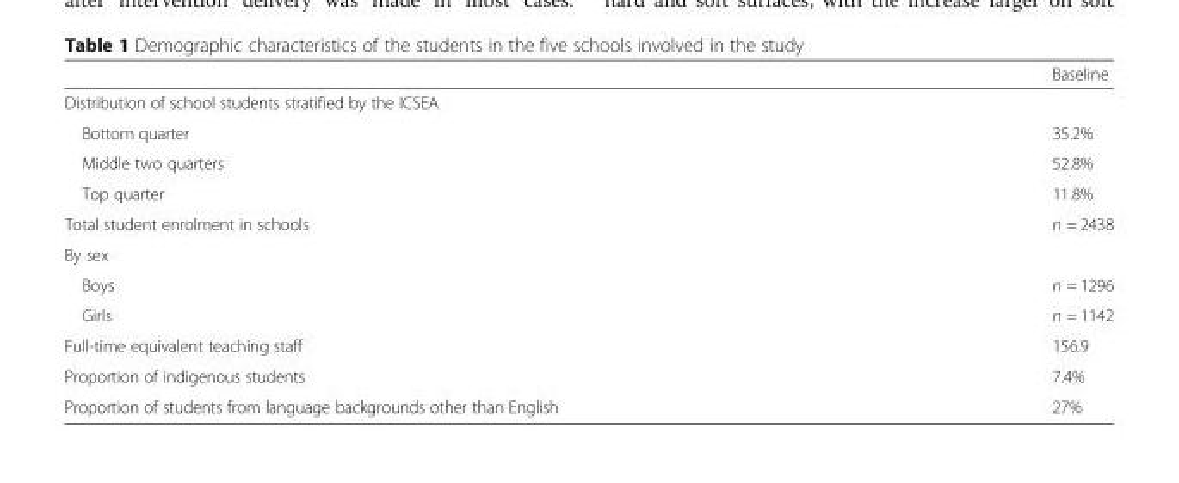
<table><thead><tr><td></td><td>Baseline</td></tr></thead><tbody><tr><td colspan="2">Distribution of school students stratified by the ICSEA</td></tr><tr><td>Bottom quarter</td><td>35.2%</td></tr><tr><td>Middle two quarters</td><td>52.8%</td></tr><tr><td>Top quarter</td><td>11.8%</td></tr><tr><td>Total student enrolment in schools</td><td>n = 2438</td></tr><tr><td colspan="2">By sex</td></tr><tr><td>Boys</td><td>n = 1296</td></tr><tr><td>Girls</td><td>n = 1142</td></tr><tr><td>Full-time equivalent teaching staff</td><td>156.9</td></tr><tr><td>Proportion of indigenous students</td><td>7.4%</td></tr><tr><td>Proportion of students from language backgrounds other than English</td><td>27%</td></tr></tbody></table>